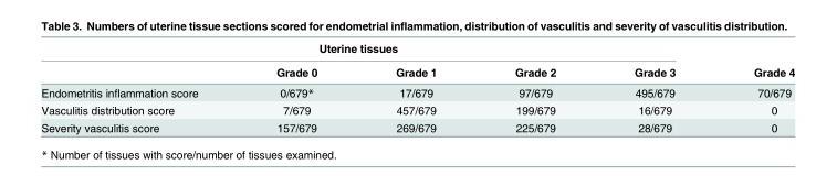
<table><thead><tr><td colspan="5">Uterine tissues</td><td rowspan="2">Grade 4</td></tr><tr><td></td><td>Grade 0</td><td>Grade 1</td><td>Grade 2</td><td>Grade 3</td></tr></thead><tbody><tr><td>Endometritis inflammation score</td><td>0/679*</td><td>17/679</td><td>97/679</td><td>495/679</td><td>70/679</td></tr><tr><td>Vasculitis distribution score</td><td>7/679</td><td>457/679</td><td>199/679</td><td>16/679</td><td>0</td></tr><tr><td>Severity vasculitis score</td><td>157/679</td><td>269/679</td><td>225/679</td><td>28/679</td><td>0</td></tr></tbody></table>